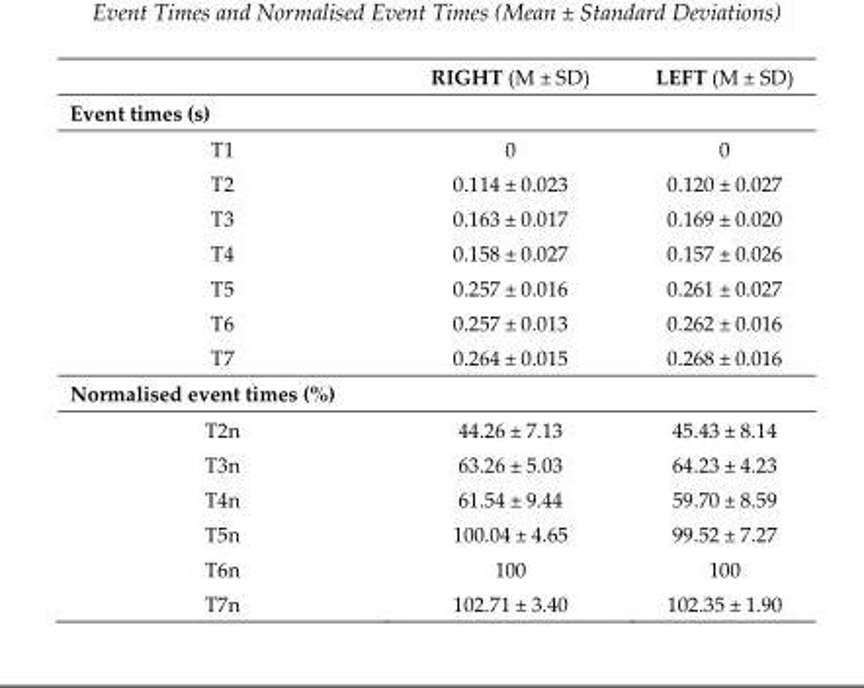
<table><thead><tr><td></td><td>RIGHT (M ± SD)</td><td>LEFT (M ± SD)</td></tr></thead><tbody><tr><td colspan="3">Event times (s)</td></tr><tr><td>T1</td><td>0</td><td>0</td></tr><tr><td>T2</td><td>0.114 ± 0.023</td><td>0.120 ± 0.027</td></tr><tr><td>T3</td><td>0.163 ± 0.017</td><td>0.169 ± 0.020</td></tr><tr><td>T4</td><td>0.158 ± 0.027</td><td>0.157 ± 0.026</td></tr><tr><td>T5</td><td>0.257 ± 0.016</td><td>0.261 ± 0.027</td></tr><tr><td>T6</td><td>0.257 ± 0.013</td><td>0.262 ± 0.016</td></tr><tr><td>T7</td><td>0.264 ± 0.015</td><td>0.268 ± 0.016</td></tr><tr><td colspan="3">Normalised event times (%)</td></tr><tr><td>T2n</td><td>44.26 ± 7.13</td><td>45.43 ± 8.14</td></tr><tr><td>T3n</td><td>63.26 ± 5.03</td><td>64.23 ± 4.23</td></tr><tr><td>T4n</td><td>61.54 ± 9.44</td><td>59.70 ± 8.59</td></tr><tr><td>T5n</td><td>100.04 ± 4.65</td><td>99.52 ± 7.27</td></tr><tr><td>T6n</td><td>100</td><td>100</td></tr><tr><td>T7n</td><td>102.71 ± 3.40</td><td>102.35 ± 1.90</td></tr></tbody></table>